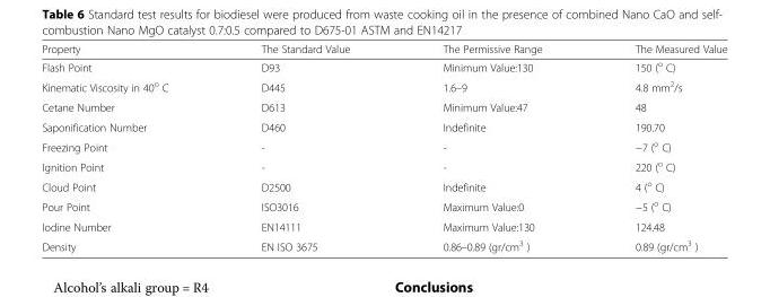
<table><tbody><tr><td>Property</td><td>The Standard Value</td><td>The Permissive Range</td><td>The Measured Value</td></tr><tr><td>Flash Point</td><td>D93</td><td>Minimum Value:130</td><td>150 (<sup>o</sup> C)</td></tr><tr><td>Kinematic Viscosity in 40<sup>o</sup> C</td><td>D445</td><td>1.6–9</td><td>4.8 mm<sup>2</sup>/s</td></tr><tr><td>Cetane Number</td><td>D613</td><td>Minimum Value:47</td><td>48</td></tr><tr><td>Saponification Number</td><td>D460</td><td>Indefinite</td><td>190.70</td></tr><tr><td>Freezing Point</td><td>-</td><td>-</td><td>−7 (<sup>o</sup> C)</td></tr><tr><td>Ignition Point</td><td>-</td><td>-</td><td>220 (<sup>o</sup> C)</td></tr><tr><td>Cloud Point</td><td>D2500</td><td>Indefinite</td><td>4 (<sup>o</sup> C)</td></tr><tr><td>Pour Point</td><td>ISO3016</td><td>Maximum Value:0</td><td>−5 (<sup>o</sup> C)</td></tr><tr><td>Iodine Number</td><td>EN14111</td><td>Maximum Value:130</td><td>124.48</td></tr><tr><td>Density</td><td>EN ISO 3675</td><td>0.86–0.89 (gr/cm<sup>3</sup> )</td><td>0.89 (gr/cm<sup>3</sup> )</td></tr></tbody></table>